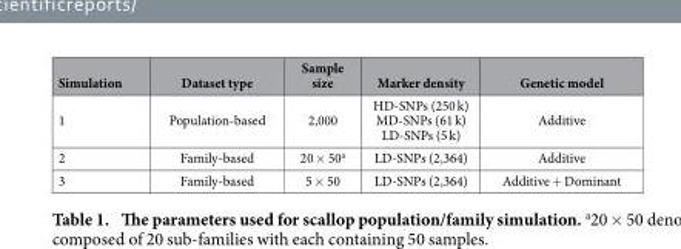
<table><thead><tr><td>Simulation</td><td>Dataset type</td><td>Sample size</td><td>Marker density</td><td>Genetic model</td></tr></thead><tbody><tr><td>1</td><td>Population-based</td><td>2,000</td><td>HD-SNPs (250 k) MD-SNPs (61 k) LD-SNPs (5 k)</td><td>Additive</td></tr><tr><td>2</td><td>Family-based</td><td>20 × 50<sup>a</sup></td><td>LD-SNPs (2,364)</td><td>Additive</td></tr><tr><td>3</td><td>Family-based</td><td>5 × 50</td><td>LD-SNPs (2,364)</td><td>Additive + Dominant</td></tr></tbody></table>